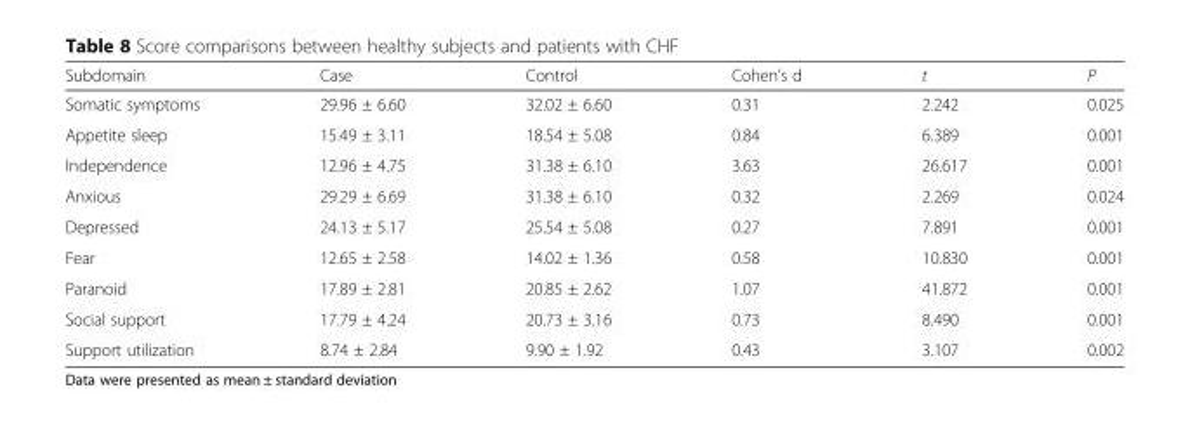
<table><thead><tr><td>Subdomain</td><td>Case</td><td>Control</td><td>Cohen’s d</td><td>t</td><td>P</td></tr></thead><tbody><tr><td>Somatic symptoms</td><td>29.96 ± 6.60</td><td>32.02 ± 6.60</td><td>0.31</td><td>2.242</td><td>0.025</td></tr><tr><td>Appetite sleep</td><td>15.49 ± 3.11</td><td>18.54 ± 5.08</td><td>0.84</td><td>6.389</td><td>0.001</td></tr><tr><td>Independence</td><td>12.96 ± 4.75</td><td>31.38 ± 6.10</td><td>3.63</td><td>26.617</td><td>0.001</td></tr><tr><td>Anxious</td><td>29.29 ± 6.69</td><td>31.38 ± 6.10</td><td>0.32</td><td>2.269</td><td>0.024</td></tr><tr><td>Depressed</td><td>24.13 ± 5.17</td><td>25.54 ± 5.08</td><td>0.27</td><td>7.891</td><td>0.001</td></tr><tr><td>Fear</td><td>12.65 ± 2.58</td><td>14.02 ± 1.36</td><td>0.58</td><td>10.830</td><td>0.001</td></tr><tr><td>Paranoid</td><td>17.89 ± 2.81</td><td>20.85 ± 2.62</td><td>1.07</td><td>41.872</td><td>0.001</td></tr><tr><td>Social support</td><td>17.79 ± 4.24</td><td>20.73 ± 3.16</td><td>0.73</td><td>8.490</td><td>0.001</td></tr><tr><td>Support utilization</td><td>8.74 ± 2.84</td><td>9.90 ± 1.92</td><td>0.43</td><td>3.107</td><td>0.002</td></tr></tbody></table>